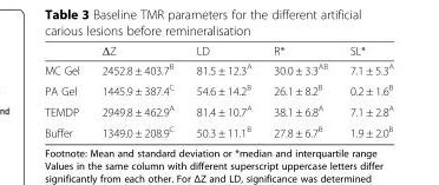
<table><thead><tr><td></td><td>ΔZ</td><td>LD</td><td>R*</td><td>SL*</td></tr></thead><tbody><tr><td>MC Gel</td><td>2452.8 ± 403.7<sup>B</sup></td><td>81.5 ± 12.3<sup>A</sup></td><td>30.0 ± 3.3<sup>AB</sup></td><td>7.1 ± 5.3<sup>A</sup></td></tr><tr><td>PA Gel</td><td>1445.9 ± 387.4<sup>C</sup></td><td>54.6 ± 14.2<sup>B</sup></td><td>26.1 ± 8.2<sup>B</sup></td><td>0.2 ± 1.6<sup>B</sup></td></tr><tr><td>TEMDP</td><td>2949.8 ± 462.9<sup>A</sup></td><td>81.4 ± 10.7<sup>A</sup></td><td>38.1 ± 6.8<sup>A</sup></td><td>7.1 ± 2.8<sup>A</sup></td></tr><tr><td>Buffer</td><td>1349.0 ± 208.9<sup>C</sup></td><td>50.3 ± 11.1<sup>B</sup></td><td>27.8 ± 6.7<sup>B</sup></td><td>1.9 ± 2.0<sup>B</sup></td></tr></tbody></table>